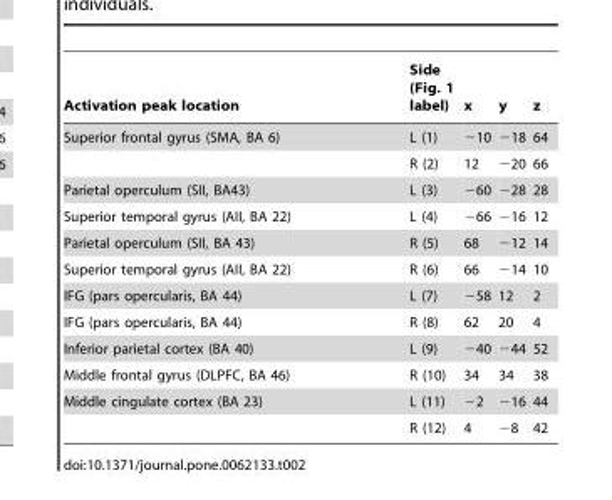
<table><thead><tr><td>Activation peak location</td><td>Side (Fig. 1 label)</td><td>x</td><td>y</td><td>z</td></tr></thead><tbody><tr><td rowspan="2">Superior frontal gyrus (SMA, BA 6)</td><td>L (1)</td><td>−10</td><td>−18</td><td>64</td></tr><tr><td>R (2)</td><td>12</td><td>−20</td><td>66</td></tr><tr><td>Parietal operculum (SII, BA43)</td><td>L (3)</td><td>−60</td><td>−28</td><td>28</td></tr><tr><td>Superior temporal gyrus (AII, BA 22)</td><td>L (4)</td><td>−66</td><td>−16</td><td>12</td></tr><tr><td>Parietal operculum (SII, BA 43)</td><td>R (5)</td><td>68</td><td>−12</td><td>14</td></tr><tr><td>Superior temporal gyrus (AII, BA 22)</td><td>R (6)</td><td>66</td><td>−14</td><td>10</td></tr><tr><td>IFG (pars opercularis, BA 44)</td><td>L (7)</td><td>−58</td><td>12</td><td>2</td></tr><tr><td>IFG (pars opercularis, BA 44)</td><td>R (8)</td><td>62</td><td>20</td><td>4</td></tr><tr><td>Inferior parietal cortex (BA 40)</td><td>L (9)</td><td>−40</td><td>−44</td><td>52</td></tr><tr><td>Middle frontal gyrus (DLPFC, BA 46)</td><td>R (10)</td><td>34</td><td>34</td><td>38</td></tr><tr><td rowspan="2">Middle cingulate cortex (BA 23)</td><td>L (11)</td><td>−2</td><td>−16</td><td>44</td></tr><tr><td>R (12)</td><td>4</td><td>−8</td><td>42</td></tr></tbody></table>